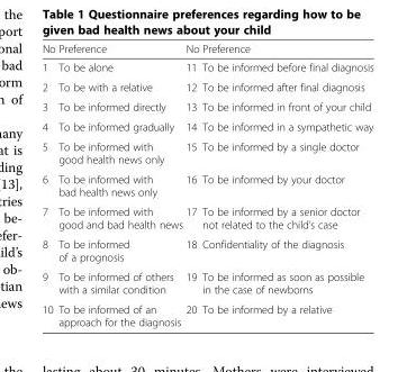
<table><thead><tr><td>No</td><td>Preference</td><td>No</td><td>Preference</td></tr></thead><tbody><tr><td>1</td><td>To be alone</td><td>11</td><td>To be informed before final diagnosis</td></tr><tr><td>2</td><td>To be with a relative</td><td>12</td><td>To be informed after final diagnosis</td></tr><tr><td>3</td><td>To be informed directly</td><td>13</td><td>To be informed in front of your child</td></tr><tr><td>4</td><td>To be informed gradually</td><td>14</td><td>To be informed in a sympathetic way</td></tr><tr><td>5</td><td>To be informed with good health news only</td><td>15</td><td>To be informed by a single doctor</td></tr><tr><td>6</td><td>To be informed with bad health news only</td><td>16</td><td>To be informed by your doctor</td></tr><tr><td>7</td><td>To be informed with good and bad health news</td><td>17</td><td>To be informed by a senior doctor not related to the child’s case</td></tr><tr><td>8</td><td>To be informed of a prognosis</td><td>18</td><td>Confidentiality of the diagnosis</td></tr><tr><td>9</td><td>To be informed of others with a similar condition</td><td>19</td><td>To be informed as soon as possible in the case of newborns</td></tr><tr><td>10</td><td>To be informed of an approach for the diagnosis</td><td>20</td><td>To be informed by a relative</td></tr></tbody></table>